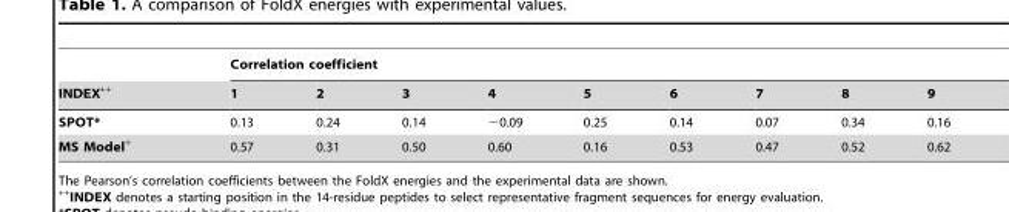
<table><thead><tr><td rowspan="2">INDEX++</td><td colspan="9">Correlation coefficient</td></tr><tr><td>1</td><td>2</td><td>3</td><td>4</td><td>5</td><td>6</td><td>7</td><td>8</td><td>9</td></tr></thead><tbody><tr><td>SPOT*</td><td>0.13</td><td>0.24</td><td>0.14</td><td>−0.09</td><td>0.25</td><td>0.14</td><td>0.07</td><td>0.34</td><td>0.16</td></tr><tr><td>MS Model+</td><td>0.57</td><td>0.31</td><td>0.50</td><td>0.60</td><td>0.16</td><td>0.53</td><td>0.47</td><td>0.52</td><td>0.62</td></tr></tbody></table>